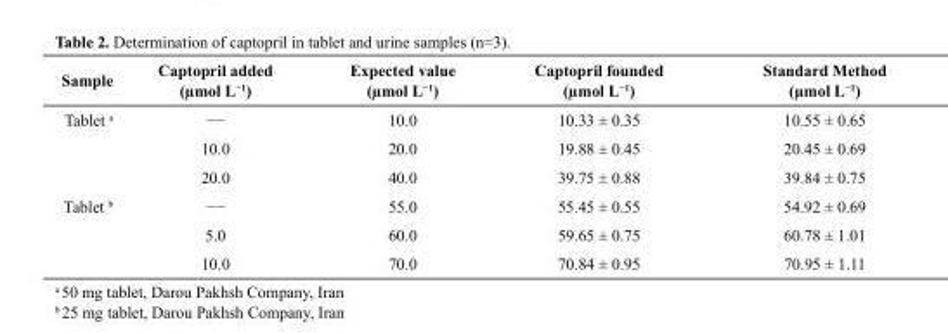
<table><thead><tr><td>Sample</td><td>Captopril added (µmol L<sup>−1</sup>)</td><td>Expected value (µmol L<sup>−1</sup>)</td><td>Captopril founded (µmol L<sup>−1</sup>)</td><td>Standard Method (µmol L<sup>−1</sup>)</td></tr></thead><tbody><tr><td rowspan="3">Tablet a</td><td>−−</td><td>10.0</td><td>10.33 ± 0.35</td><td>10.55 ± 0.65</td></tr><tr><td>10.0</td><td>20.0</td><td>19.88 ± 0.45</td><td>20.45 ± 0.69</td></tr><tr><td>20.0</td><td>40.0</td><td>39.75 ± 0.88</td><td>39.84 ± 0.75</td></tr><tr><td rowspan="3">Tablet b</td><td>−−</td><td>55.0</td><td>55.45 ± 0.55</td><td>54.92 ± 0.69</td></tr><tr><td>5.0</td><td>60.0</td><td>59.65 ± 0.75</td><td>60.78 ± 1.01</td></tr><tr><td>10.0</td><td>70.0</td><td>70.84 ± 0.95</td><td>70.95 ± 1.11</td></tr></tbody></table>